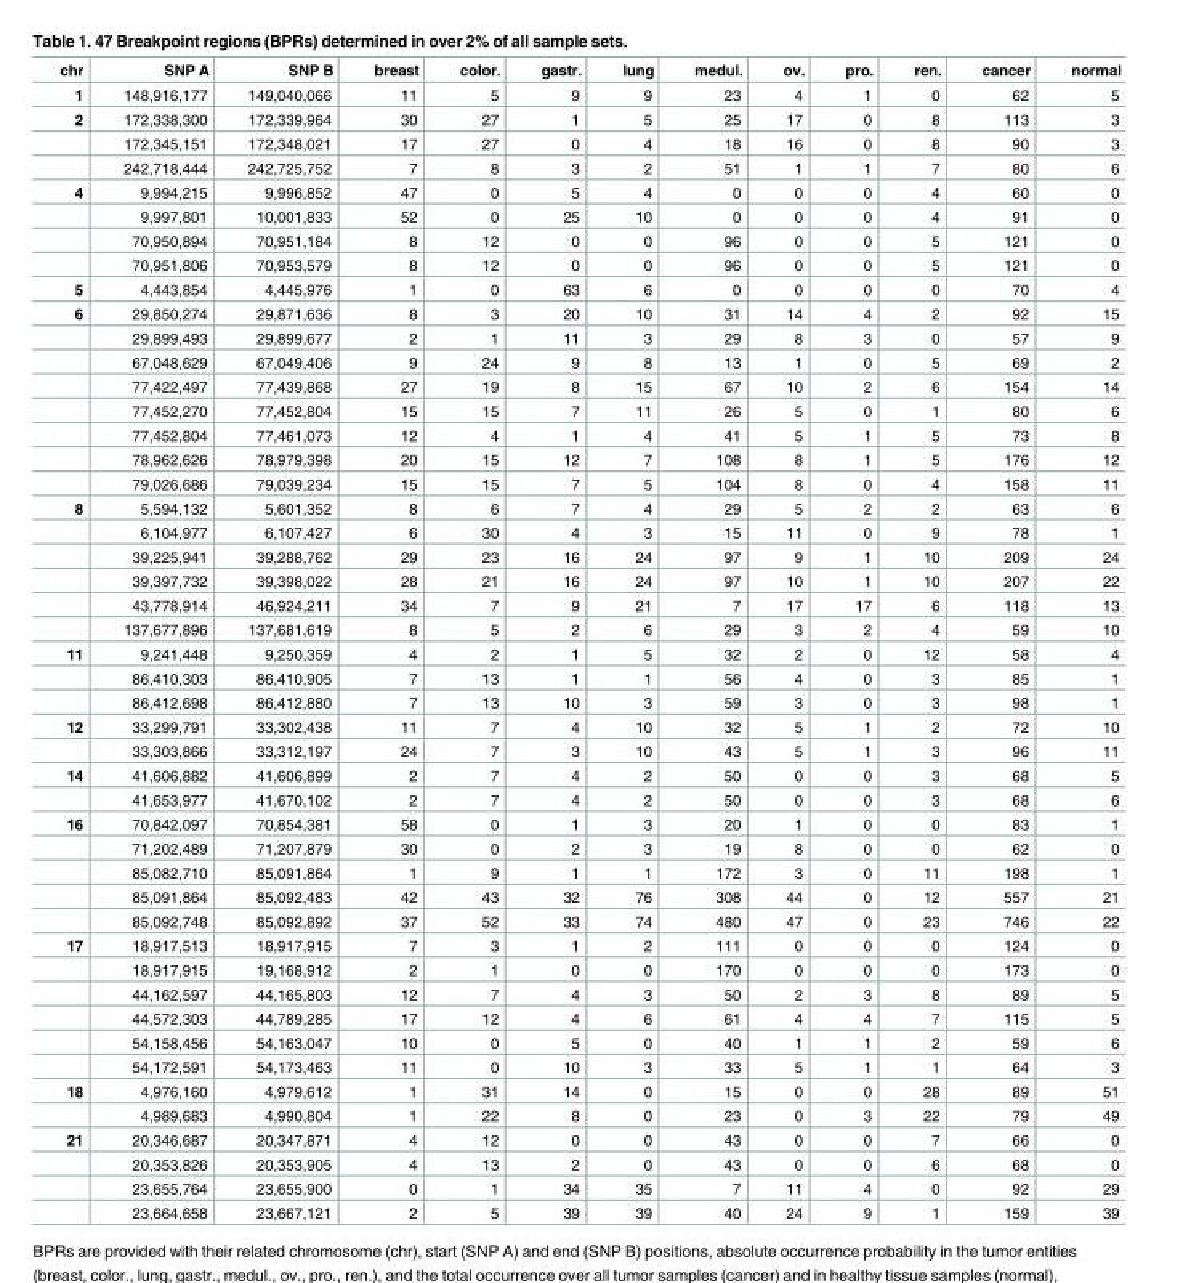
<table><thead><tr><td>chr</td><td>SNP A</td><td>SNP B</td><td>breast</td><td>color.</td><td>gastr.</td><td>lung</td><td>medul.</td><td>ov.</td><td>pro.</td><td>ren.</td><td>cancer</td><td>normal</td></tr></thead><tbody><tr><td>1</td><td>148,916,177</td><td>149,040,066</td><td>11</td><td>5</td><td>9</td><td>9</td><td>23</td><td>4</td><td>1</td><td>0</td><td>62</td><td>5</td></tr><tr><td rowspan="3">2</td><td>172,338,300</td><td>172,339,964</td><td>30</td><td>27</td><td>1</td><td>5</td><td>25</td><td>17</td><td>0</td><td>8</td><td>113</td><td>3</td></tr><tr><td>172,345,151</td><td>172,348,021</td><td>17</td><td>27</td><td>0</td><td>4</td><td>18</td><td>16</td><td>0</td><td>8</td><td>90</td><td>3</td></tr><tr><td>242,718,444</td><td>242,725,752</td><td>7</td><td>8</td><td>3</td><td>2</td><td>51</td><td>1</td><td>1</td><td>7</td><td>80</td><td>6</td></tr><tr><td rowspan="4">4</td><td>9,994,215</td><td>9,996,852</td><td>47</td><td>0</td><td>5</td><td>4</td><td>0</td><td>0</td><td>0</td><td>4</td><td>60</td><td>0</td></tr><tr><td>9,997,801</td><td>10,001,833</td><td>52</td><td>0</td><td>25</td><td>10</td><td>0</td><td>0</td><td>0</td><td>4</td><td>91</td><td>0</td></tr><tr><td>70,950,894</td><td>70,951,184</td><td>8</td><td>12</td><td>0</td><td>0</td><td>96</td><td>0</td><td>0</td><td>5</td><td>121</td><td>0</td></tr><tr><td>70,951,806</td><td>70,953,579</td><td>8</td><td>12</td><td>0</td><td>0</td><td>96</td><td>0</td><td>0</td><td>5</td><td>121</td><td>0</td></tr><tr><td>5</td><td>4,443,854</td><td>4,445,976</td><td>1</td><td>0</td><td>63</td><td>6</td><td>0</td><td>0</td><td>0</td><td>0</td><td>70</td><td>4</td></tr><tr><td rowspan="8">6</td><td>29,850,274</td><td>29,871,636</td><td>8</td><td>3</td><td>20</td><td>10</td><td>31</td><td>14</td><td>4</td><td>2</td><td>92</td><td>15</td></tr><tr><td>29,899,493</td><td>29,899,677</td><td>2</td><td>1</td><td>11</td><td>3</td><td>29</td><td>8</td><td>3</td><td>0</td><td>57</td><td>9</td></tr><tr><td>67,048,629</td><td>67,049,406</td><td>9</td><td>24</td><td>9</td><td>8</td><td>13</td><td>1</td><td>0</td><td>5</td><td>69</td><td>2</td></tr><tr><td>77,422,497</td><td>77,439,868</td><td>27</td><td>19</td><td>8</td><td>15</td><td>67</td><td>10</td><td>2</td><td>6</td><td>154</td><td>14</td></tr><tr><td>77,452,270</td><td>77,452,804</td><td>15</td><td>15</td><td>7</td><td>11</td><td>26</td><td>5</td><td>0</td><td>1</td><td>80</td><td>6</td></tr><tr><td>77,452,804</td><td>77,461,073</td><td>12</td><td>4</td><td>1</td><td>4</td><td>41</td><td>5</td><td>1</td><td>5</td><td>73</td><td>8</td></tr><tr><td>78,962,626</td><td>78,979,398</td><td>20</td><td>15</td><td>12</td><td>7</td><td>108</td><td>8</td><td>1</td><td>5</td><td>176</td><td>12</td></tr><tr><td>79,026,686</td><td>79,039,234</td><td>15</td><td>15</td><td>7</td><td>5</td><td>104</td><td>8</td><td>0</td><td>4</td><td>158</td><td>11</td></tr><tr><td rowspan="6">8</td><td>5,594,132</td><td>5,601,352</td><td>8</td><td>6</td><td>7</td><td>4</td><td>29</td><td>5</td><td>2</td><td>2</td><td>63</td><td>6</td></tr><tr><td>6,104,977</td><td>6,107,427</td><td>6</td><td>30</td><td>4</td><td>3</td><td>15</td><td>11</td><td>0</td><td>9</td><td>78</td><td>1</td></tr><tr><td>39,225,941</td><td>39,288,762</td><td>29</td><td>23</td><td>16</td><td>24</td><td>97</td><td>9</td><td>1</td><td>10</td><td>209</td><td>24</td></tr><tr><td>39,397,732</td><td>39,398,022</td><td>28</td><td>21</td><td>16</td><td>24</td><td>97</td><td>10</td><td>1</td><td>10</td><td>207</td><td>22</td></tr><tr><td>43,778,914</td><td>46,924,211</td><td>34</td><td>7</td><td>9</td><td>21</td><td>7</td><td>17</td><td>17</td><td>6</td><td>118</td><td>13</td></tr><tr><td>137,677,896</td><td>137,681,619</td><td>8</td><td>5</td><td>2</td><td>6</td><td>29</td><td>3</td><td>2</td><td>4</td><td>59</td><td>10</td></tr><tr><td rowspan="3">11</td><td>9,241,448</td><td>9,250,359</td><td>4</td><td>2</td><td>1</td><td>5</td><td>32</td><td>2</td><td>0</td><td>12</td><td>58</td><td>4</td></tr><tr><td>86,410,303</td><td>86,410,905</td><td>7</td><td>13</td><td>1</td><td>1</td><td>56</td><td>4</td><td>0</td><td>3</td><td>85</td><td>1</td></tr><tr><td>86,412,698</td><td>86,412,880</td><td>7</td><td>13</td><td>10</td><td>3</td><td>59</td><td>3</td><td>0</td><td>3</td><td>98</td><td>1</td></tr><tr><td rowspan="2">12</td><td>33,299,791</td><td>33,302,438</td><td>11</td><td>7</td><td>4</td><td>10</td><td>32</td><td>5</td><td>1</td><td>2</td><td>72</td><td>10</td></tr><tr><td>33,303,866</td><td>33,312,197</td><td>24</td><td>7</td><td>3</td><td>10</td><td>43</td><td>5</td><td>1</td><td>3</td><td>96</td><td>11</td></tr><tr><td rowspan="2">14</td><td>41,606,882</td><td>41,606,899</td><td>2</td><td>7</td><td>4</td><td>2</td><td>50</td><td>0</td><td>0</td><td>3</td><td>68</td><td>5</td></tr><tr><td>41,653,977</td><td>41,670,102</td><td>2</td><td>7</td><td>4</td><td>2</td><td>50</td><td>0</td><td>0</td><td>3</td><td>68</td><td>6</td></tr><tr><td rowspan="5">16</td><td>70,842,097</td><td>70,854,381</td><td>58</td><td>0</td><td>1</td><td>3</td><td>20</td><td>1</td><td>0</td><td>0</td><td>83</td><td>1</td></tr><tr><td>71,202,489</td><td>71,207,879</td><td>30</td><td>0</td><td>2</td><td>3</td><td>19</td><td>8</td><td>0</td><td>0</td><td>62</td><td>0</td></tr><tr><td>85,082,710</td><td>85,091,864</td><td>1</td><td>9</td><td>1</td><td>1</td><td>172</td><td>3</td><td>0</td><td>11</td><td>198</td><td>1</td></tr><tr><td>85,091,864</td><td>85,092,483</td><td>42</td><td>43</td><td>32</td><td>76</td><td>308</td><td>44</td><td>0</td><td>12</td><td>557</td><td>21</td></tr><tr><td>85,092,748</td><td>85,092,892</td><td>37</td><td>52</td><td>33</td><td>74</td><td>480</td><td>47</td><td>0</td><td>23</td><td>746</td><td>22</td></tr><tr><td rowspan="6">17</td><td>18,917,513</td><td>18,917,915</td><td>7</td><td>3</td><td>1</td><td>2</td><td>111</td><td>0</td><td>0</td><td>0</td><td>124</td><td>0</td></tr><tr><td>18,917,915</td><td>19,168,912</td><td>2</td><td>1</td><td>0</td><td>0</td><td>170</td><td>0</td><td>0</td><td>0</td><td>173</td><td>0</td></tr><tr><td>44,162,597</td><td>44,165,803</td><td>12</td><td>7</td><td>4</td><td>3</td><td>50</td><td>2</td><td>3</td><td>8</td><td>89</td><td>5</td></tr><tr><td>44,572,303</td><td>44,789,285</td><td>17</td><td>12</td><td>4</td><td>6</td><td>61</td><td>4</td><td>4</td><td>7</td><td>115</td><td>5</td></tr><tr><td>54,158,456</td><td>54,163,047</td><td>10</td><td>0</td><td>5</td><td>0</td><td>40</td><td>1</td><td>1</td><td>2</td><td>59</td><td>6</td></tr><tr><td>54,172,591</td><td>54,173,463</td><td>11</td><td>0</td><td>10</td><td>3</td><td>33</td><td>5</td><td>1</td><td>1</td><td>64</td><td>3</td></tr><tr><td rowspan="2">18</td><td>4,976,160</td><td>4,979,612</td><td>1</td><td>31</td><td>14</td><td>0</td><td>15</td><td>0</td><td>0</td><td>28</td><td>89</td><td>51</td></tr><tr><td>4,989,683</td><td>4,990,804</td><td>1</td><td>22</td><td>8</td><td>0</td><td>23</td><td>0</td><td>3</td><td>22</td><td>79</td><td>49</td></tr><tr><td rowspan="4">21</td><td>20,346,687</td><td>20,347,871</td><td>4</td><td>12</td><td>0</td><td>0</td><td>43</td><td>0</td><td>0</td><td>7</td><td>66</td><td>0</td></tr><tr><td>20,353,826</td><td>20,353,905</td><td>4</td><td>13</td><td>2</td><td>0</td><td>43</td><td>0</td><td>0</td><td>6</td><td>68</td><td>0</td></tr><tr><td>23,655,764</td><td>23,655,900</td><td>0</td><td>1</td><td>34</td><td>35</td><td>7</td><td>11</td><td>4</td><td>0</td><td>92</td><td>29</td></tr><tr><td>23,664,658</td><td>23,667,121</td><td>2</td><td>5</td><td>39</td><td>39</td><td>40</td><td>24</td><td>9</td><td>1</td><td>159</td><td>39</td></tr></tbody></table>